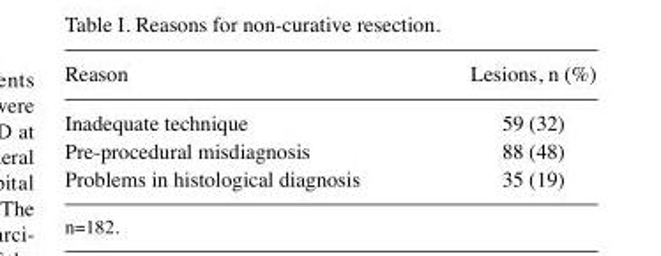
<table><thead><tr><td>Reason</td><td>Lesions, n (%)</td></tr></thead><tbody><tr><td>Inadequate technique</td><td>59 (32)</td></tr><tr><td>Pre-procedural misdiagnosis</td><td>88 (48)</td></tr><tr><td>Problems in histological diagnosis</td><td>35 (19)</td></tr></tbody></table>